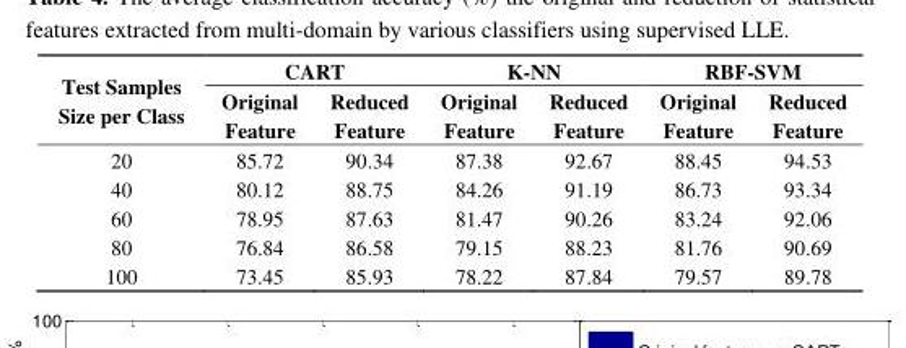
<table><thead><tr><td rowspan="2">Test Samples Size per Class</td><td colspan="2">CART</td><td colspan="2">K-NN</td><td colspan="2">RBF-SVM</td></tr><tr><td>Original Feature</td><td>Reduced Feature</td><td>Original Feature</td><td>Reduced Feature</td><td>Original Feature</td><td>Reduced Feature</td></tr></thead><tbody><tr><td>20</td><td>85.72</td><td>90.34</td><td>87.38</td><td>92.67</td><td>88.45</td><td>94.53</td></tr><tr><td>40</td><td>80.12</td><td>88.75</td><td>84.26</td><td>91.19</td><td>86.73</td><td>93.34</td></tr><tr><td>60</td><td>78.95</td><td>87.63</td><td>81.47</td><td>90.26</td><td>83.24</td><td>92.06</td></tr><tr><td>80</td><td>76.84</td><td>86.58</td><td>79.15</td><td>88.23</td><td>81.76</td><td>90.69</td></tr><tr><td>100</td><td>73.45</td><td>85.93</td><td>78.22</td><td>87.84</td><td>79.57</td><td>89.78</td></tr></tbody></table>